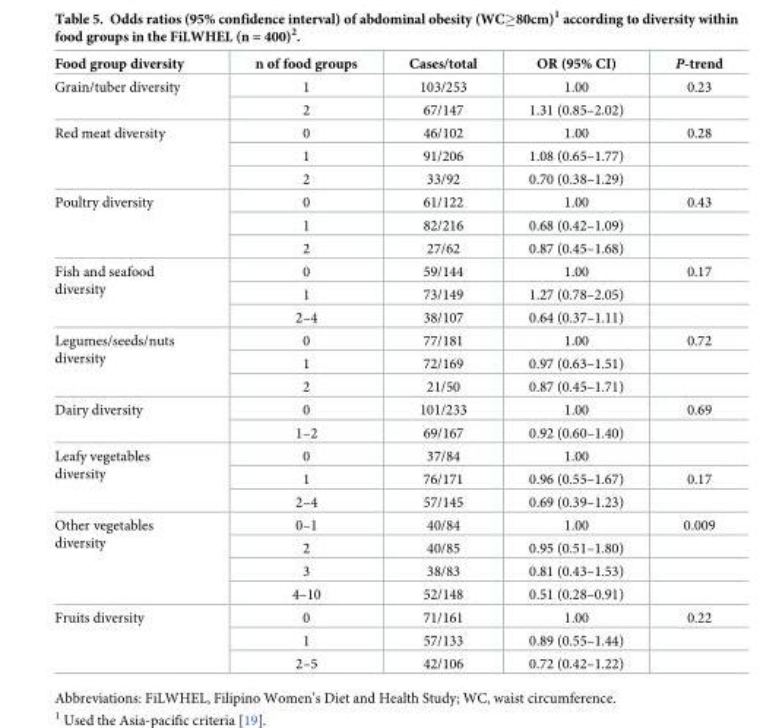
<table><thead><tr><td>Food group diversity</td><td>n of food groups</td><td>Cases/total</td><td>OR (95% CI)</td><td>P-trend</td></tr></thead><tbody><tr><td rowspan="2">Grain/tuber diversity</td><td>1</td><td>103/253</td><td>1.00</td><td>0.23</td></tr><tr><td>2</td><td>67/147</td><td>1.31 (0.85–2.02)</td><td></td></tr><tr><td rowspan="3">Red meat diversity</td><td>0</td><td>46/102</td><td>1.00</td><td>0.28</td></tr><tr><td>1</td><td>91/206</td><td>1.08 (0.65–1.77)</td><td></td></tr><tr><td>2</td><td>33/92</td><td>0.70 (0.38–1.29)</td><td></td></tr><tr><td rowspan="3">Poultry diversity</td><td>0</td><td>61/122</td><td>1.00</td><td>0.43</td></tr><tr><td>1</td><td>82/216</td><td>0.68 (0.42–1.09)</td><td></td></tr><tr><td>2</td><td>27/62</td><td>0.87 (0.45–1.68)</td><td></td></tr><tr><td rowspan="3">Fish and seafood diversity</td><td>0</td><td>59/144</td><td>1.00</td><td>0.17</td></tr><tr><td>1</td><td>73/149</td><td>1.27 (0.78–2.05)</td><td></td></tr><tr><td>2–4</td><td>38/107</td><td>0.64 (0.37–1.11)</td><td></td></tr><tr><td rowspan="3">Legumes/seeds/nuts diversity</td><td>0</td><td>77/181</td><td>1.00</td><td>0.72</td></tr><tr><td>1</td><td>72/169</td><td>0.97 (0.63–1.51)</td><td></td></tr><tr><td>2</td><td>21/50</td><td>0.87 (0.45–1.71)</td><td></td></tr><tr><td rowspan="2">Dairy diversity</td><td>0</td><td>101/233</td><td>1.00</td><td>0.69</td></tr><tr><td>1–2</td><td>69/167</td><td>0.92 (0.60–1.40)</td><td></td></tr><tr><td rowspan="3">Leafy vegetables diversity</td><td>0</td><td>37/84</td><td>1.00</td><td></td></tr><tr><td>1</td><td>76/171</td><td>0.96 (0.55–1.67)</td><td>0.17</td></tr><tr><td>2–4</td><td>57/145</td><td>0.69 (0.39–1.23)</td><td></td></tr><tr><td rowspan="4">Other vegetables diversity</td><td>0–1</td><td>40/84</td><td>1.00</td><td>0.009</td></tr><tr><td>2</td><td>40/85</td><td>0.95 (0.51–1.80)</td><td></td></tr><tr><td>3</td><td>38/83</td><td>0.81 (0.43–1.53)</td><td></td></tr><tr><td>4–10</td><td>52/148</td><td>0.51 (0.28–0.91)</td><td></td></tr><tr><td rowspan="3">Fruits diversity</td><td>0</td><td>71/161</td><td>1.00</td><td>0.22</td></tr><tr><td>1</td><td>57/133</td><td>0.89 (0.55–1.44)</td><td></td></tr><tr><td>2–5</td><td>42/106</td><td>0.72 (0.42–1.22)</td><td></td></tr></tbody></table>